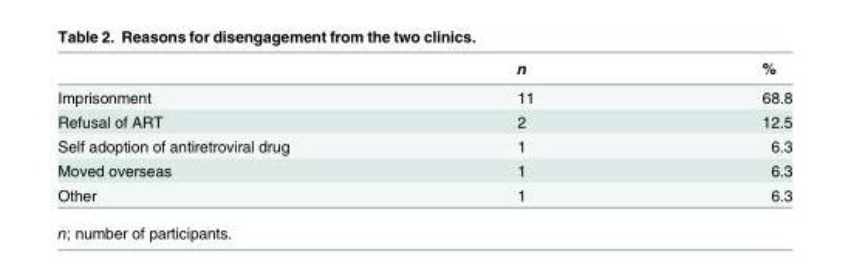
<table><thead><tr><td></td><td>n</td><td>%</td></tr></thead><tbody><tr><td>Imprisonment</td><td>11</td><td>68.8</td></tr><tr><td>Refusal of ART</td><td>2</td><td>12.5</td></tr><tr><td>Self adoption of antiretroviral drug</td><td>1</td><td>6.3</td></tr><tr><td>Moved overseas</td><td>1</td><td>6.3</td></tr><tr><td>Other</td><td>1</td><td>6.3</td></tr></tbody></table>